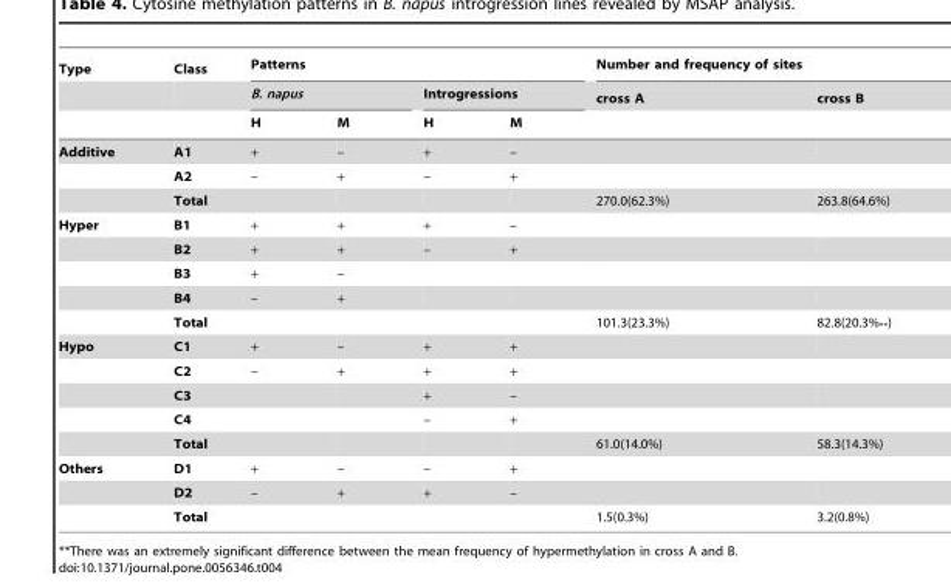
<table><thead><tr><td rowspan="3">Type</td><td rowspan="3">Class</td><td colspan="4">Patterns</td><td colspan="2">Number and frequency of sites</td></tr><tr><td colspan="2">B. napus</td><td colspan="2">Introgressions</td><td rowspan="2">cross A</td><td rowspan="2">cross B</td></tr><tr><td>H</td><td>M</td><td>H</td><td>M</td></tr></thead><tbody><tr><td rowspan="3">Additive</td><td>A1</td><td>+</td><td>–</td><td>+</td><td>–</td><td></td><td></td></tr><tr><td>A2</td><td>–</td><td>+</td><td>–</td><td>+</td><td></td><td></td></tr><tr><td>Total</td><td></td><td></td><td></td><td></td><td>270.0(62.3%)</td><td>263.8(64.6%)</td></tr><tr><td rowspan="5">Hyper</td><td>B1</td><td>+</td><td>+</td><td>+</td><td>–</td><td></td><td></td></tr><tr><td>B2</td><td>+</td><td>+</td><td>–</td><td>+</td><td></td><td></td></tr><tr><td>B3</td><td>+</td><td>–</td><td></td><td></td><td></td><td></td></tr><tr><td>B4</td><td>–</td><td>+</td><td></td><td></td><td></td><td></td></tr><tr><td>Total</td><td></td><td></td><td></td><td></td><td>101.3(23.3%)</td><td>82.8(20.3%**)</td></tr><tr><td rowspan="5">Hypo</td><td>C1</td><td>+</td><td>–</td><td>+</td><td>+</td><td></td><td></td></tr><tr><td>C2</td><td>–</td><td>+</td><td>+</td><td>+</td><td></td><td></td></tr><tr><td>C3</td><td></td><td></td><td>+</td><td>–</td><td></td><td></td></tr><tr><td>C4</td><td></td><td></td><td>–</td><td>+</td><td></td><td></td></tr><tr><td>Total</td><td></td><td></td><td></td><td></td><td>61.0(14.0%)</td><td>58.3(14.3%)</td></tr><tr><td rowspan="3">Others</td><td>D1</td><td>+</td><td>–</td><td>–</td><td>+</td><td></td><td></td></tr><tr><td>D2</td><td>–</td><td>+</td><td>+</td><td>–</td><td></td><td></td></tr><tr><td>Total</td><td></td><td></td><td></td><td></td><td>1.5(0.3%)</td><td>3.2(0.8%)</td></tr></tbody></table>